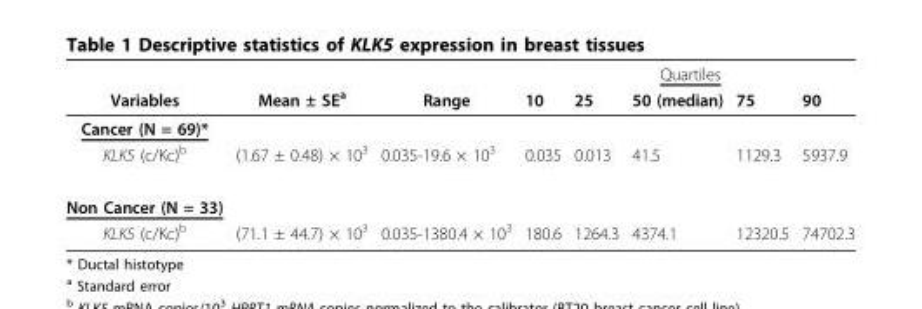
<table><thead><tr><td rowspan="2">Variables</td><td rowspan="2">Mean ± SE<sup>a</sup></td><td rowspan="2">Range</td><td colspan="5">Quartiles</td></tr><tr><td>10</td><td>25</td><td>50 (median)</td><td>75</td><td>90</td></tr></thead><tbody><tr><td colspan="8">Cancer (N = 69)*</td></tr><tr><td>KLK5 (c/Kc)<sup>b</sup></td><td>(1.67 ± 0.48) × 10<sup>3</sup></td><td>0.035-19.6 × 10<sup>3</sup></td><td>0.035</td><td>0.013</td><td>41.5</td><td>1129.3</td><td>5937.9</td></tr><tr><td colspan="8">Non Cancer (N = 33)</td></tr><tr><td>KLK5 (c/Kc)<sup>b</sup></td><td>(71.1 ± 44.7) × 10<sup>3</sup></td><td>0.035-1380.4 × 10<sup>3</sup></td><td>180.6</td><td>1264.3</td><td>4374.1</td><td>12320.5</td><td>74702.3</td></tr></tbody></table>